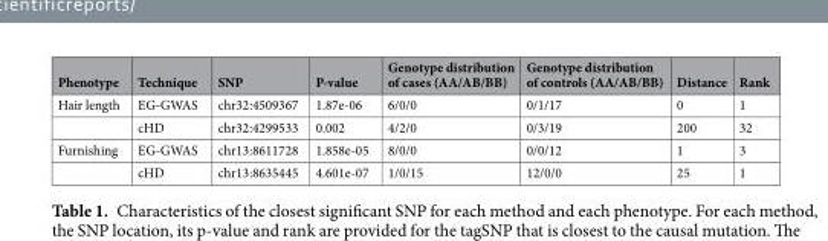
<table><thead><tr><td>Phenotype</td><td>Technique</td><td>SNP</td><td>P-value</td><td>Genotype distribution of cases (AA/AB/BB)</td><td>Genotype distribution of controls (AA/AB/BB)</td><td>Distance</td><td>Rank</td></tr></thead><tbody><tr><td rowspan="2">Hair length</td><td>EG-GWAS</td><td>chr32:4509367</td><td>1.87e-06</td><td>6/0/0</td><td>0/1/17</td><td>0</td><td>1</td></tr><tr><td>cHD</td><td>chr32:4299533</td><td>0.002</td><td>4/2/0</td><td>0/3/19</td><td>200</td><td>32</td></tr><tr><td rowspan="2">Furnishing</td><td>EG-GWAS</td><td>chr13:8611728</td><td>1.858e-05</td><td>8/0/0</td><td>0/0/12</td><td>1</td><td>3</td></tr><tr><td>cHD</td><td>chr13:8635445</td><td>4.601e-07</td><td>1/0/15</td><td>12/0/0</td><td>25</td><td>1</td></tr></tbody></table>